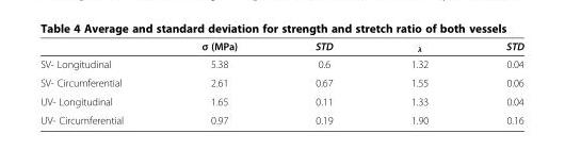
<table><thead><tr><td></td><td>σ (MPa)</td><td>STD</td><td><sub>λ</sub></td><td>STD</td></tr></thead><tbody><tr><td>SV- Longitudinal</td><td>5.38</td><td>0.6</td><td>1.32</td><td>0.04</td></tr><tr><td>SV- Circumferential</td><td>2.61</td><td>0.67</td><td>1.55</td><td>0.06</td></tr><tr><td>UV- Longitudinal</td><td>1.65</td><td>0.11</td><td>1.33</td><td>0.04</td></tr><tr><td>UV- Circumferential</td><td>0.97</td><td>0.19</td><td>1.90</td><td>0.16</td></tr></tbody></table>